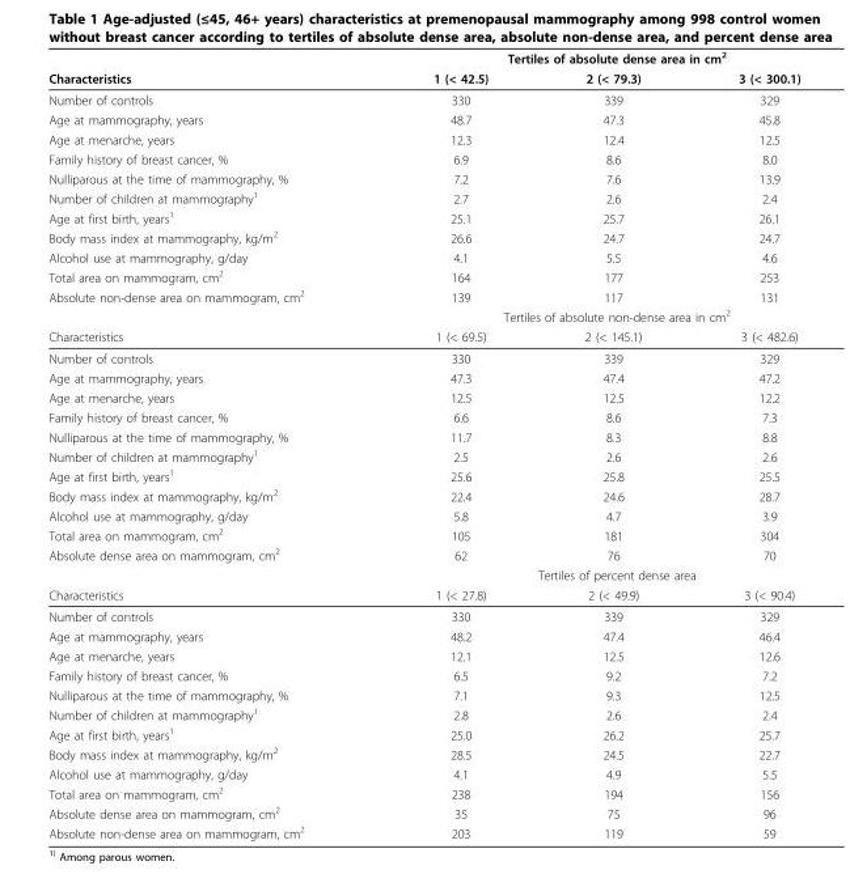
<table><thead><tr><td rowspan="2">Characteristics</td><td colspan="3">Tertiles of absolute dense area in cm<sup>2</sup></td></tr><tr><td>1 (&lt; 42.5)</td><td>2 (&lt; 79.3)</td><td>3 (&lt; 300.1)</td></tr></thead><tbody><tr><td>Number of controls</td><td>330</td><td>339</td><td>329</td></tr><tr><td>Age at mammography, years</td><td>48.7</td><td>47.3</td><td>45.8</td></tr><tr><td>Age at menarche, years</td><td>12.3</td><td>12.4</td><td>12.5</td></tr><tr><td>Family history of breast cancer, %</td><td>6.9</td><td>8.6</td><td>8.0</td></tr><tr><td>Nulliparous at the time of mammography, %</td><td>7.2</td><td>7.6</td><td>13.9</td></tr><tr><td>Number of children at mammography<sup>1</sup></td><td>2.7</td><td>2.6</td><td>2.4</td></tr><tr><td>Age at first birth, years<sup>1</sup></td><td>25.1</td><td>25.7</td><td>26.1</td></tr><tr><td>Body mass index at mammography, kg/m<sup>2</sup></td><td>26.6</td><td>24.7</td><td>24.7</td></tr><tr><td>Alcohol use at mammography, g/day</td><td>4.1</td><td>5.5</td><td>4.6</td></tr><tr><td>Total area on mammogram, cm<sup>2</sup></td><td>164</td><td>177</td><td>253</td></tr><tr><td rowspan="2">Absolute non-dense area on mammogram, cm<sup>2</sup></td><td>139</td><td>117</td><td>131</td></tr><tr><td colspan="3">Tertiles of absolute non-dense area in cm<sup>2</sup></td></tr><tr><td>Characteristics</td><td>1 (&lt; 69.5)</td><td>2 (&lt; 145.1)</td><td>3 (&lt; 482.6)</td></tr><tr><td>Number of controls</td><td>330</td><td>339</td><td>329</td></tr><tr><td>Age at mammography, years</td><td>47.3</td><td>47.4</td><td>47.2</td></tr><tr><td>Age at menarche, years</td><td>12.5</td><td>12.5</td><td>12.2</td></tr><tr><td>Family history of breast cancer, %</td><td>6.6</td><td>8.6</td><td>7.3</td></tr><tr><td>Nulliparous at the time of mammography, %</td><td>11.7</td><td>8.3</td><td>8.8</td></tr><tr><td>Number of children at mammography<sup>1</sup></td><td>2.5</td><td>2.6</td><td>2.6</td></tr><tr><td>Age at first birth, years<sup>1</sup></td><td>25.6</td><td>25.8</td><td>25.5</td></tr><tr><td>Body mass index at mammography, kg/m<sup>2</sup></td><td>22.4</td><td>24.6</td><td>28.7</td></tr><tr><td>Alcohol use at mammography, g/day</td><td>5.8</td><td>4.7</td><td>3.9</td></tr><tr><td>Total area on mammogram, cm<sup>2</sup></td><td>105</td><td>181</td><td>304</td></tr><tr><td rowspan="2">Absolute dense area on mammogram, cm<sup>2</sup></td><td>62</td><td>76</td><td>70</td></tr><tr><td colspan="3">Tertiles of percent dense area</td></tr><tr><td>Characteristics</td><td>1 (&lt; 27.8)</td><td>2 (&lt; 49.9)</td><td>3 (&lt; 90.4)</td></tr><tr><td>Number of controls</td><td>330</td><td>339</td><td>329</td></tr><tr><td>Age at mammography, years</td><td>48.2</td><td>47.4</td><td>46.4</td></tr><tr><td>Age at menarche, years</td><td>12.1</td><td>12.5</td><td>12.6</td></tr><tr><td>Family history of breast cancer, %</td><td>6.5</td><td>9.2</td><td>7.2</td></tr><tr><td>Nulliparous at the time of mammography, %</td><td>7.1</td><td>9.3</td><td>12.5</td></tr><tr><td>Number of children at mammography<sup>1</sup></td><td>2.8</td><td>2.6</td><td>2.4</td></tr><tr><td>Age at first birth, years<sup>1</sup></td><td>25.0</td><td>26.2</td><td>25.7</td></tr><tr><td>Body mass index at mammography, kg/m<sup>2</sup></td><td>28.5</td><td>24.5</td><td>22.7</td></tr><tr><td>Alcohol use at mammography, g/day</td><td>4.1</td><td>4.9</td><td>5.5</td></tr><tr><td>Total area on mammogram, cm<sup>2</sup></td><td>238</td><td>194</td><td>156</td></tr><tr><td>Absolute dense area on mammogram, cm<sup>2</sup></td><td>35</td><td>75</td><td>96</td></tr><tr><td>Absolute non-dense area on mammogram, cm<sup>2</sup></td><td>203</td><td>119</td><td>59</td></tr></tbody></table>